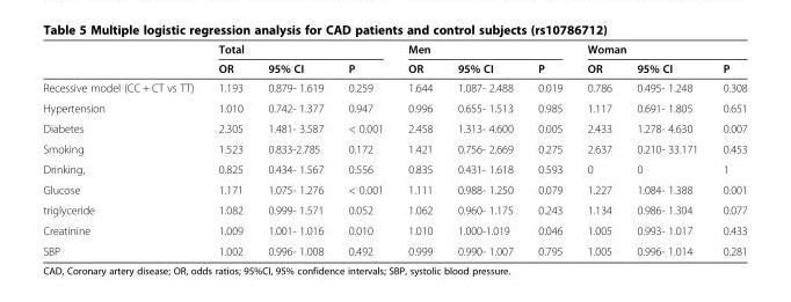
<table><thead><tr><td rowspan="2"></td><td colspan="3">Total</td><td colspan="3">Men</td><td colspan="3">Woman</td></tr><tr><td>OR</td><td>95% CI</td><td>P</td><td>OR</td><td>95% CI</td><td>P</td><td>OR</td><td>95% CI</td><td>P</td></tr></thead><tbody><tr><td>Recessive model (CC + CT vs TT)</td><td>1.193</td><td>0.879- 1.619</td><td>0.259</td><td>1.644</td><td>1.087- 2.488</td><td>0.019</td><td>0.786</td><td>0.495- 1.248</td><td>0.308</td></tr><tr><td>Hypertension</td><td>1.010</td><td>0.742- 1.377</td><td>0.947</td><td>0.996</td><td>0.655- 1.513</td><td>0.985</td><td>1.117</td><td>0.691- 1.805</td><td>0.651</td></tr><tr><td>Diabetes</td><td>2.305</td><td>1.481- 3.587</td><td>&lt; 0.001</td><td>2.458</td><td>1.313- 4.600</td><td>0.005</td><td>2.433</td><td>1.278- 4.630</td><td>0.007</td></tr><tr><td>Smoking</td><td>1.523</td><td>0.833-2.785</td><td>0.172</td><td>1.421</td><td>0.756- 2.669</td><td>0.275</td><td>2.637</td><td>0.210- 33.171</td><td>0.453</td></tr><tr><td>Drinking,</td><td>0.825</td><td>0.434- 1.567</td><td>0.556</td><td>0.835</td><td>0.431- 1.618</td><td>0.593</td><td>0</td><td>0</td><td>1</td></tr><tr><td>Glucose</td><td>1.171</td><td>1.075- 1.276</td><td>&lt; 0.001</td><td>1.111</td><td>0.988- 1.250</td><td>0.079</td><td>1.227</td><td>1.084- 1.388</td><td>0.001</td></tr><tr><td>triglyceride</td><td>1.082</td><td>0.999- 1.571</td><td>0.052</td><td>1.062</td><td>0.960- 1.175</td><td>0.243</td><td>1.134</td><td>0.986- 1.304</td><td>0.077</td></tr><tr><td>Creatinine</td><td>1.009</td><td>1.001- 1.016</td><td>0.010</td><td>1.010</td><td>1.000-1.019</td><td>0.046</td><td>1.005</td><td>0.993- 1.017</td><td>0.433</td></tr><tr><td>SBP</td><td>1.002</td><td>0.996- 1.008</td><td>0.492</td><td>0.999</td><td>0.990- 1.007</td><td>0.795</td><td>1.005</td><td>0.996- 1.014</td><td>0.281</td></tr></tbody></table>